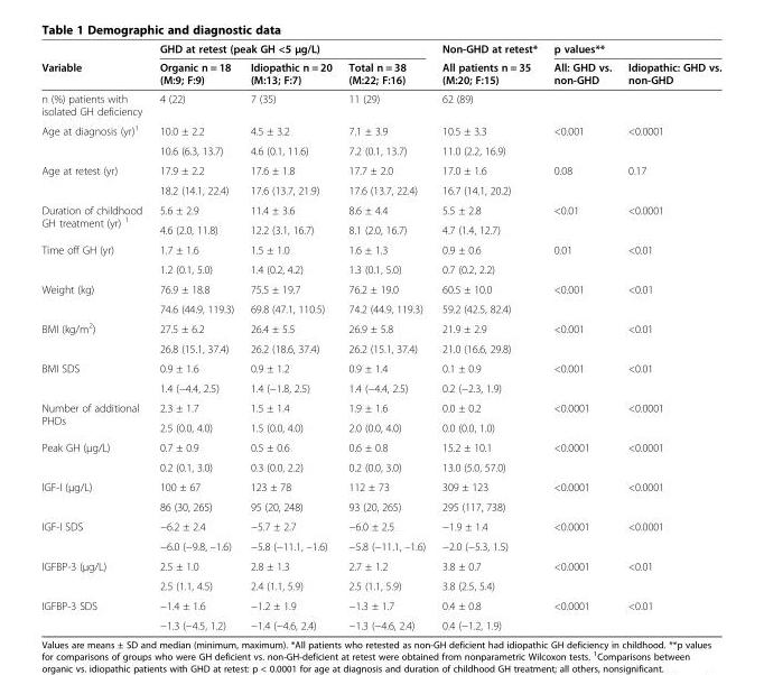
<table><thead><tr><td rowspan="2">Variable</td><td colspan="3">GHD at retest (peak GH &lt;5 μg/L)</td><td rowspan="2">Non-GHD at retest* All patients n = 35 (M:20; F:15)</td><td colspan="2">p values**</td></tr><tr><td>Organic n = 18 (M:9; F:9)</td><td>Idiopathic n = 20 (M:13; F:7)</td><td>Total n = 38 (M:22; F:16)</td><td>All: GHD vs. non-GHD</td><td>Idiopathic: GHD vs. non-GHD</td></tr></thead><tbody><tr><td>n (%) patients with isolated GH deficiency</td><td>4 (22)</td><td>7 (35)</td><td>11 (29)</td><td>62 (89)</td><td></td><td></td></tr><tr><td rowspan="2">Age at diagnosis (yr)<sup>1</sup></td><td>10.0 ± 2.2</td><td>4.5 ± 3.2</td><td>7.1 ± 3.9</td><td>10.5 ± 3.3</td><td rowspan="2">&lt;0.001</td><td rowspan="2">&lt;0.0001</td></tr><tr><td>10.6 (6.3, 13.7)</td><td>4.6 (0.1, 11.6)</td><td>7.2 (0.1, 13.7)</td><td>11.0 (2.2, 16.9)</td></tr><tr><td rowspan="2">Age at retest (yr)</td><td>17.9 ± 2.2</td><td>17.6 ± 1.8</td><td>17.7 ± 2.0</td><td>17.0 ± 1.6</td><td rowspan="2">0.08</td><td rowspan="2">0.17</td></tr><tr><td>18.2 (14.1, 22.4)</td><td>17.6 (13.7, 21.9)</td><td>17.6 (13.7, 22.4)</td><td>16.7 (14.1, 20.2)</td></tr><tr><td rowspan="2">Duration of childhood GH treatment (yr) <sup>1</sup></td><td>5.6 ± 2.9</td><td>11.4 ± 3.6</td><td>8.6 ± 4.4</td><td>5.5 ± 2.8</td><td rowspan="2">&lt;0.01</td><td rowspan="2">&lt;0.0001</td></tr><tr><td>4.6 (2.0, 11.8)</td><td>12.2 (3.1, 16.7)</td><td>8.1 (2.0, 16.7)</td><td>4.7 (1.4, 12.7)</td></tr><tr><td rowspan="2">Time off GH (yr)</td><td>1.7 ± 1.6</td><td>1.5 ± 1.0</td><td>1.6 ± 1.3</td><td>0.9 ± 0.6</td><td rowspan="2">0.01</td><td rowspan="2">&lt;0.01</td></tr><tr><td>1.2 (0.1, 5.0)</td><td>1.4 (0.2, 4.2)</td><td>1.3 (0.1, 5.0)</td><td>0.7 (0.2, 2.2)</td></tr><tr><td rowspan="2">Weight (kg)</td><td>76.9 ± 18.8</td><td>75.5 ± 19.7</td><td>76.2 ± 19.0</td><td>60.5 ± 10.0</td><td rowspan="2">&lt;0.001</td><td rowspan="2">&lt;0.01</td></tr><tr><td>74.6 (44.9, 119.3)</td><td>69.8 (47.1, 110.5)</td><td>74.2 (44.9, 119.3)</td><td>59.2 (42.5, 82.4)</td></tr><tr><td rowspan="2">BMI (kg/m<sup>2</sup>)</td><td>27.5 ± 6.2</td><td>26.4 ± 5.5</td><td>26.9 ± 5.8</td><td>21.9 ± 2.9</td><td rowspan="2">&lt;0.001</td><td rowspan="2">&lt;0.01</td></tr><tr><td>26.8 (15.1, 37.4)</td><td>26.2 (18.6, 37.4)</td><td>26.2 (15.1, 37.4)</td><td>21.0 (16.6, 29.8)</td></tr><tr><td rowspan="2">BMI SDS</td><td>0.9 ± 1.6</td><td>0.9 ± 1.2</td><td>0.9 ± 1.4</td><td>0.1 ± 0.9</td><td rowspan="2">&lt;0.001</td><td rowspan="2">&lt;0.01</td></tr><tr><td>1.4 (−4.4, 2.5)</td><td>1.4 (−1.8, 2.5)</td><td>1.4 (−4.4, 2.5)</td><td>0.2 (−2.3, 1.9)</td></tr><tr><td rowspan="2">Number of additional PHDs</td><td>2.3 ± 1.7</td><td>1.5 ± 1.4</td><td>1.9 ± 1.6</td><td>0.0 ± 0.2</td><td rowspan="2">&lt;0.0001</td><td rowspan="2">&lt;0.0001</td></tr><tr><td>2.5 (0.0, 4.0)</td><td>1.5 (0.0, 4.0)</td><td>2.0 (0.0, 4.0)</td><td>0.0 (0.0, 1.0)</td></tr><tr><td rowspan="2">Peak GH (μg/L)</td><td>0.7 ± 0.9</td><td>0.5 ± 0.6</td><td>0.6 ± 0.8</td><td>15.2 ± 10.1</td><td rowspan="2">&lt;0.0001</td><td rowspan="2">&lt;0.0001</td></tr><tr><td>0.2 (0.1, 3.0)</td><td>0.3 (0.0, 2.2)</td><td>0.2 (0.0, 3.0)</td><td>13.0 (5.0, 57.0)</td></tr><tr><td rowspan="2">IGF-I (μg/L)</td><td>100 ± 67</td><td>123 ± 78</td><td>112 ± 73</td><td>309 ± 123</td><td rowspan="2">&lt;0.0001</td><td rowspan="2">&lt;0.0001</td></tr><tr><td>86 (30, 265)</td><td>95 (20, 248)</td><td>93 (20, 265)</td><td>295 (117, 738)</td></tr><tr><td rowspan="2">IGF-I SDS</td><td>−6.2 ± 2.4</td><td>−5.7 ± 2.7</td><td>−6.0 ± 2.5</td><td>−1.9 ± 1.4</td><td rowspan="2">&lt;0.0001</td><td rowspan="2">&lt;0.0001</td></tr><tr><td>−6.0 (−9.8, –1.6)</td><td>−5.8 (−11.1, –1.6)</td><td>−5.8 (−11.1, –1.6)</td><td>−2.0 (−5.3, 1.5)</td></tr><tr><td rowspan="2">IGFBP-3 (μg/L)</td><td>2.5 ± 1.0</td><td>2.8 ± 1.3</td><td>2.7 ± 1.2</td><td>3.8 ± 0.7</td><td rowspan="2">&lt;0.0001</td><td rowspan="2">&lt;0.01</td></tr><tr><td>2.5 (1.1, 4.5)</td><td>2.4 (1.1, 5.9)</td><td>2.5 (1.1, 5.9)</td><td>3.8 (2.5, 5.4)</td></tr><tr><td rowspan="2">IGFBP-3 SDS</td><td>−1.4 ± 1.6</td><td>−1.2 ± 1.9</td><td>−1.3 ± 1.7</td><td>0.4 ± 0.8</td><td>&lt;0.0001</td><td>&lt;0.01</td></tr><tr><td>−1.3 (−4.5, 1.2)</td><td>−1.4 (−4.6, 2.4)</td><td>−1.3 (−4.6, 2.4)</td><td>0.4 (−1.2, 1.9)</td><td></td><td></td></tr></tbody></table>